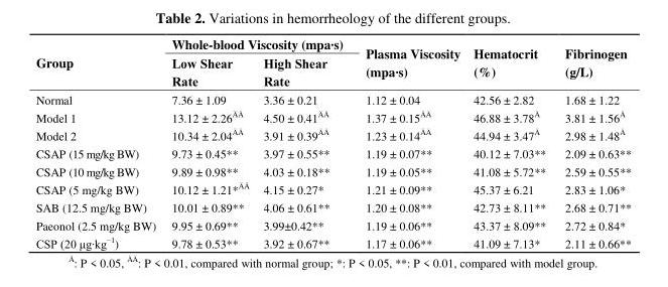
<table><thead><tr><td rowspan="2">Group</td><td colspan="2">Whole-blood Viscosity (mpa·s)</td><td rowspan="2">Plasma Viscosity (mpa·s)</td><td rowspan="2">Hematocrit (%)</td><td rowspan="2">Fibrinogen (g/L)</td></tr><tr><td>Low Shear Rate</td><td>High Shear Rate</td></tr></thead><tbody><tr><td>Normal</td><td>7.36 ± 1.09</td><td>3.36 ± 0.21</td><td>1.12 ± 0.04</td><td>42.56 ± 2.82</td><td>1.68 ± 1.22</td></tr><tr><td>Model 1</td><td>13.12 ± 2.26ÄÄ</td><td>4.50 ± 0.41ÄÄ</td><td>1.37 ± 0.15ÄÄ</td><td>46.88 ± 3.78Ä</td><td>3.81 ± 1.56Ä</td></tr><tr><td>Model 2</td><td>10.34 ± 2.04ÄÄ</td><td>3.91 ± 0.39ÄÄ</td><td>1.23 ± 0.14ÄÄ</td><td>44.94 ± 3.47Ä</td><td>2.98 ± 1.48Ä</td></tr><tr><td>CSAP (15 mg/kg BW)</td><td>9.73 ± 0.45**</td><td>3.97 ± 0.55**</td><td>1.19 ± 0.07**</td><td>40.12 ± 7.03**</td><td>2.09 ± 0.63**</td></tr><tr><td>CSAP (10 mg/kg BW)</td><td>9.89 ± 0.98**</td><td>4.03 ± 0.18**</td><td>1.19 ± 0.05**</td><td>41.08 ± 5.72**</td><td>2.59 ± 0.55**</td></tr><tr><td>CSAP (5 mg/kg BW)</td><td>10.12 ± 1.21*ÄÄ</td><td>4.15 ± 0.27*</td><td>1.21 ± 0.09**</td><td>45.37 ± 6.21</td><td>2.83 ± 1.06*</td></tr><tr><td>SAB (12.5 mg/kg BW)</td><td>10.01 ± 0.89**</td><td>4.06 ± 0.61**</td><td>1.20 ± 0.08**</td><td>42.73 ± 8.11**</td><td>2.68 ± 0.71**</td></tr><tr><td>Paeonol (2.5 mg/kg BW)</td><td>9.95 ± 0.69**</td><td>3.99±0.42**</td><td>1.19 ± 0.06**</td><td>43.37 ± 8.09**</td><td>2.72 ± 0.84*</td></tr><tr><td>CSP (20 μg·kg<sup>−1</sup>)</td><td>9.78 ± 0.53**</td><td>3.92 ± 0.67**</td><td>1.17 ± 0.06**</td><td>41.09 ± 7.13*</td><td>2.11 ± 0.66**</td></tr></tbody></table>